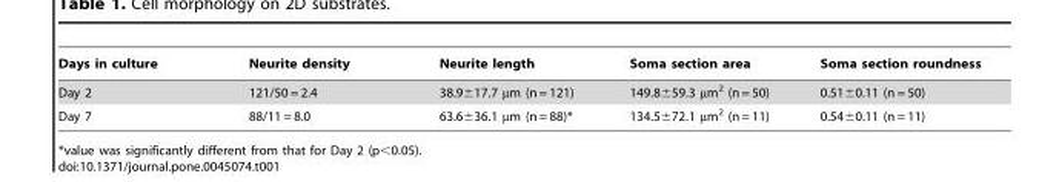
<table><thead><tr><td>Days in culture</td><td>Neurite density</td><td>Neurite length</td><td>Soma section area</td><td>Soma section roundness</td></tr></thead><tbody><tr><td>Day 2</td><td>121/50 = 2.4</td><td>38.9±17.7 µm (n = 121)</td><td>149.8±59.3 µm<sup>2</sup> (n = 50)</td><td>0.51±0.11 (n = 50)</td></tr><tr><td>Day 7</td><td>88/11 = 8.0</td><td>63.6±36.1 µm (n = 88)*</td><td>134.5±72.1 µm<sup>2</sup> (n = 11)</td><td>0.54±0.11 (n = 11)</td></tr></tbody></table>